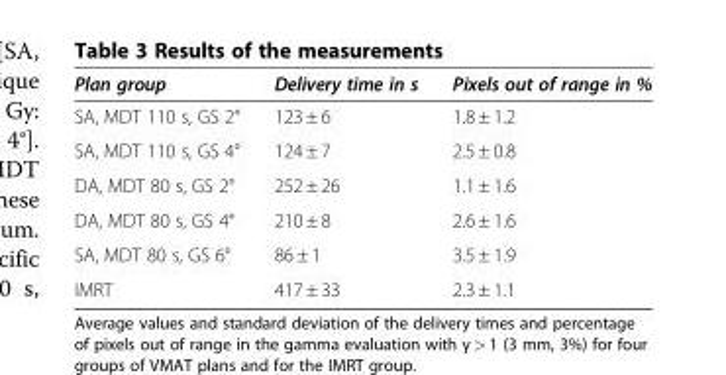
<table><thead><tr><td>Plan group</td><td>Delivery time in s</td><td>Pixels out of range in %</td></tr></thead><tbody><tr><td>SA, MDT 110 s, GS 2°</td><td>123 ± 6</td><td>1.8 ± 1.2</td></tr><tr><td>SA, MDT 110 s, GS 4°</td><td>124 ± 7</td><td>2.5 ± 0.8</td></tr><tr><td>DA, MDT 80 s, GS 2°</td><td>252 ± 26</td><td>1.1 ± 1.6</td></tr><tr><td>DA, MDT 80 s, GS 4°</td><td>210 ± 8</td><td>2.6 ± 1.6</td></tr><tr><td>SA, MDT 80 s, GS 6°</td><td>86 ± 1</td><td>3.5 ± 1.9</td></tr><tr><td>IMRT</td><td>417 ± 33</td><td>2.3 ± 1.1</td></tr></tbody></table>